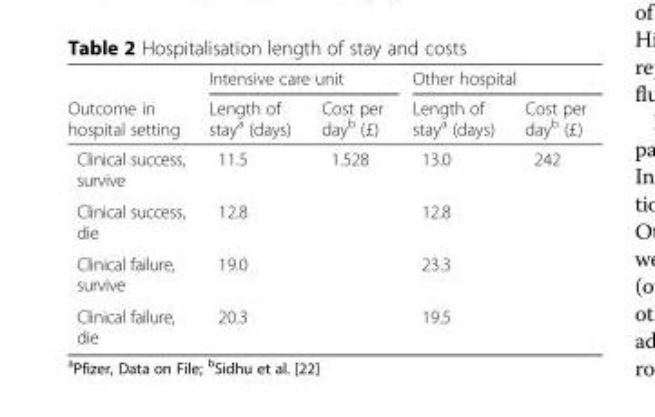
<table><thead><tr><td rowspan="2">Outcome in hospital setting</td><td colspan="2">Intensive care unit</td><td colspan="2">Other hospital</td></tr><tr><td>Length of stay<sup>a</sup> (days)</td><td>Cost per day<sup>b</sup> (£)</td><td>Length of stay<sup>a</sup> (days)</td><td>Cost per day<sup>b</sup> (£)</td></tr></thead><tbody><tr><td>Clinical success, survive</td><td>11.5</td><td rowspan="4">1.528</td><td>13.0</td><td rowspan="4">242</td></tr><tr><td>Clinical success, die</td><td>12.8</td><td>12.8</td></tr><tr><td>Clinical failure, survive</td><td>19.0</td><td>23.3</td></tr><tr><td>Clinical failure, die</td><td>20.3</td><td>19.5</td></tr></tbody></table>